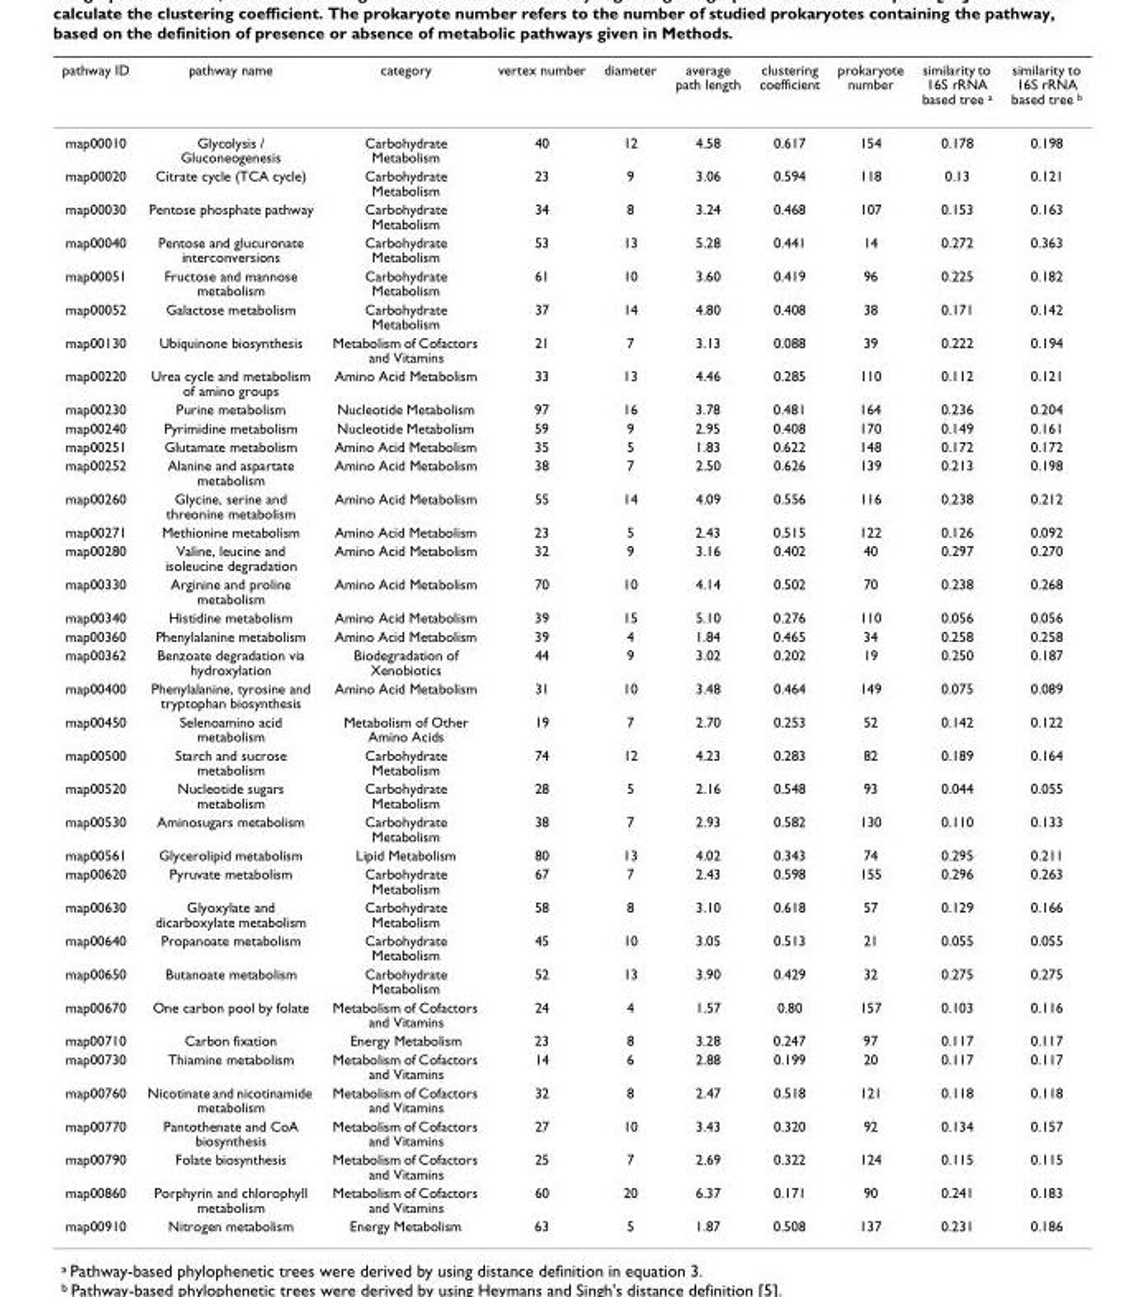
<table><thead><tr><td>pathway ID</td><td>pathway name</td><td>category</td><td>vertex number</td><td>diameter</td><td>average path length</td><td>clustering coefficient</td><td>prokaryote number</td><td>similarity to 16S rRNA based tree a</td><td>similarity to 16S rRNA based tree b</td></tr></thead><tbody><tr><td>map00010</td><td>Glycolysis / Gluconeogenesis</td><td>Carbohydrate Metabolism</td><td>40</td><td>12</td><td>4.58</td><td>0.617</td><td>154</td><td>0.178</td><td>0.198</td></tr><tr><td>map00020</td><td>Citrate cycle (TCA cycle)</td><td>Carbohydrate Metabolism</td><td>23</td><td>9</td><td>3.06</td><td>0.594</td><td>118</td><td>0.13</td><td>0.121</td></tr><tr><td>map00030</td><td>Pentose phosphate pathway</td><td>Carbohydrate Metabolism</td><td>34</td><td>8</td><td>3.24</td><td>0.468</td><td>107</td><td>0.153</td><td>0.163</td></tr><tr><td>map00040</td><td>Pentose and glucuronate interconversions</td><td>Carbohydrate Metabolism</td><td>53</td><td>13</td><td>5.28</td><td>0.441</td><td>14</td><td>0.272</td><td>0.363</td></tr><tr><td>map00051</td><td>Fructose and mannose metabolism</td><td>Carbohydrate Metabolism</td><td>61</td><td>10</td><td>3.60</td><td>0.419</td><td>96</td><td>0.225</td><td>0.182</td></tr><tr><td>map00052</td><td>Galactose metabolism</td><td>Carbohydrate Metabolism</td><td>37</td><td>14</td><td>4.80</td><td>0.408</td><td>38</td><td>0.171</td><td>0.142</td></tr><tr><td>map00130</td><td>Ubiquinone biosynthesis</td><td>Metabolism of Cofactors and Vitamins</td><td>21</td><td>7</td><td>3.13</td><td>0.088</td><td>39</td><td>0.222</td><td>0.194</td></tr><tr><td>map00220</td><td>Urea cycle and metabolism of amino groups</td><td>Amino Acid Metabolism</td><td>33</td><td>13</td><td>4.46</td><td>0.285</td><td>110</td><td>0.112</td><td>0.121</td></tr><tr><td>map00230</td><td>Purine metabolism</td><td>Nucleotide Metabolism</td><td>97</td><td>16</td><td>3.78</td><td>0.481</td><td>164</td><td>0.236</td><td>0.204</td></tr><tr><td>map00240</td><td>Pyrimidine metabolism</td><td>Nucleotide Metabolism</td><td>59</td><td>9</td><td>2.95</td><td>0.408</td><td>170</td><td>0.149</td><td>0.161</td></tr><tr><td>map00251</td><td>Glutamate metabolism</td><td>Amino Acid Metabolism</td><td>35</td><td>5</td><td>1.83</td><td>0.622</td><td>148</td><td>0.172</td><td>0.172</td></tr><tr><td>map00252</td><td>Alanine and aspartate metabolism</td><td>Amino Acid Metabolism</td><td>38</td><td>7</td><td>2.50</td><td>0.626</td><td>139</td><td>0.213</td><td>0.198</td></tr><tr><td>map00260</td><td>Glycine, serine and threonine metabolism</td><td>Amino Acid Metabolism</td><td>55</td><td>14</td><td>4.09</td><td>0.556</td><td>116</td><td>0.238</td><td>0.212</td></tr><tr><td>map00271</td><td>Methionine metabolism</td><td>Amino Acid Metabolism</td><td>23</td><td>5</td><td>2.43</td><td>0.515</td><td>122</td><td>0.126</td><td>0.092</td></tr><tr><td>map00280</td><td>Valine, leucine and isoleucine degradation</td><td>Amino Acid Metabolism</td><td>32</td><td>9</td><td>3.16</td><td>0.402</td><td>40</td><td>0.297</td><td>0.270</td></tr><tr><td>map00330</td><td>Arginine and proline metabolism</td><td>Amino Acid Metabolism</td><td>70</td><td>10</td><td>4.14</td><td>0.502</td><td>70</td><td>0.238</td><td>0.268</td></tr><tr><td>map00340</td><td>Histidine metabolism</td><td>Amino Acid Metabolism</td><td>39</td><td>15</td><td>5.10</td><td>0.276</td><td>110</td><td>0.056</td><td>0.056</td></tr><tr><td>map00360</td><td>Phenylalanine metabolism</td><td>Amino Acid Metabolism</td><td>39</td><td>4</td><td>1.84</td><td>0.465</td><td>34</td><td>0.258</td><td>0.258</td></tr><tr><td>map00362</td><td>Benzoate degradation via hydroxylation</td><td>Biodegradation of Xenobiotics</td><td>44</td><td>9</td><td>3.02</td><td>0.202</td><td>19</td><td>0.250</td><td>0.187</td></tr><tr><td>map00400</td><td>Phenylalanine, tyrosine and tryptophan biosynthesis</td><td>Amino Acid Metabolism</td><td>31</td><td>10</td><td>3.48</td><td>0.464</td><td>149</td><td>0.075</td><td>0.089</td></tr><tr><td>map00450</td><td>Selenoamino acid metabolism</td><td>Metabolism of Other Amino Acids</td><td>19</td><td>7</td><td>2.70</td><td>0.253</td><td>52</td><td>0.142</td><td>0.122</td></tr><tr><td>map00500</td><td>Starch and sucrose metabolism</td><td>Carbohydrate Metabolism</td><td>74</td><td>12</td><td>4.23</td><td>0.283</td><td>82</td><td>0.189</td><td>0.164</td></tr><tr><td>map00520</td><td>Nucleotide sugars metabolism</td><td>Carbohydrate Metabolism</td><td>28</td><td>5</td><td>2.16</td><td>0.548</td><td>93</td><td>0.044</td><td>0.055</td></tr><tr><td>map00530</td><td>Aminosugars metabolism</td><td>Carbohydrate Metabolism</td><td>38</td><td>7</td><td>2.93</td><td>0.582</td><td>130</td><td>0.110</td><td>0.133</td></tr><tr><td>map00561</td><td>Glycerolipid metabolism</td><td>Lipid Metabolism</td><td>80</td><td>13</td><td>4.02</td><td>0.343</td><td>74</td><td>0.295</td><td>0.211</td></tr><tr><td>map00620</td><td>Pyruvate metabolism</td><td>Carbohydrate Metabolism</td><td>67</td><td>7</td><td>2.43</td><td>0.598</td><td>155</td><td>0.296</td><td>0.263</td></tr><tr><td>map00630</td><td>Glyoxylate and dicarboxylate metabolism</td><td>Carbohydrate Metabolism</td><td>58</td><td>8</td><td>3.10</td><td>0.618</td><td>57</td><td>0.129</td><td>0.166</td></tr><tr><td>map00640</td><td>Propanoate metabolism</td><td>Carbohydrate Metabolism</td><td>45</td><td>10</td><td>3.05</td><td>0.513</td><td>21</td><td>0.055</td><td>0.055</td></tr><tr><td>map00650</td><td>Butanoate metabolism</td><td>Carbohydrate Metabolism</td><td>52</td><td>13</td><td>3.90</td><td>0.429</td><td>32</td><td>0.275</td><td>0.275</td></tr><tr><td>map00670</td><td>One carbon pool by folate</td><td>Metabolism of Cofactors and Vitamins</td><td>24</td><td>4</td><td>1.57</td><td>0.80</td><td>157</td><td>0.103</td><td>0.116</td></tr><tr><td>map00710</td><td>Carbon fixation</td><td>Energy Metabolism</td><td>23</td><td>8</td><td>3.28</td><td>0.247</td><td>97</td><td>0.117</td><td>0.117</td></tr><tr><td>map00730</td><td>Thiamine metabolism</td><td>Metabolism of Cofactors and Vitamins</td><td>14</td><td>6</td><td>2.88</td><td>0.199</td><td>20</td><td>0.117</td><td>0.117</td></tr><tr><td>map00760</td><td>Nicotinate and nicotinamide metabolism</td><td>Metabolism of Cofactors and Vitamins</td><td>32</td><td>8</td><td>2.47</td><td>0.518</td><td>121</td><td>0.118</td><td>0.118</td></tr><tr><td>map00770</td><td>Pantothenate and CoA biosynthesis</td><td>Metabolism of Cofactors and Vitamins</td><td>27</td><td>10</td><td>3.43</td><td>0.320</td><td>92</td><td>0.134</td><td>0.157</td></tr><tr><td>map00790</td><td>Folate biosynthesis</td><td>Metabolism of Cofactors and Vitamins</td><td>25</td><td>7</td><td>2.69</td><td>0.322</td><td>124</td><td>0.115</td><td>0.115</td></tr><tr><td>map00860</td><td>Porphyrin and chlorophyll metabolism</td><td>Metabolism of Cofactors and Vitamins</td><td>60</td><td>20</td><td>6.37</td><td>0.171</td><td>90</td><td>0.241</td><td>0.183</td></tr><tr><td>map00910</td><td>Nitrogen metabolism</td><td>Energy Metabolism</td><td>63</td><td>5</td><td>1.87</td><td>0.508</td><td>137</td><td>0.231</td><td>0.186</td></tr></tbody></table>